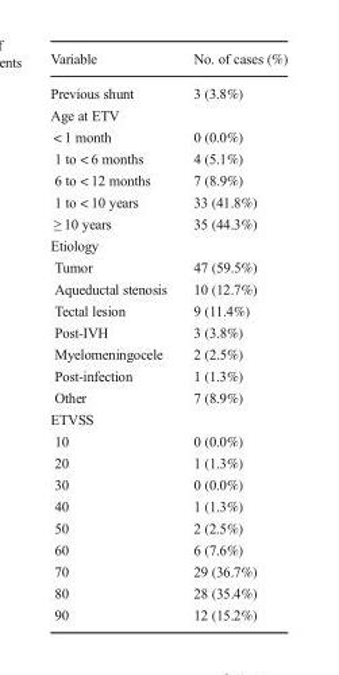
<table><thead><tr><td>Variable</td><td>No. of cases (%)</td></tr></thead><tbody><tr><td>Previous shunt</td><td>3 (3.8%)</td></tr><tr><td colspan="2">Age at ETV</td></tr><tr><td>&lt; 1 month</td><td>0 (0.0%)</td></tr><tr><td>1 to &lt; 6 months</td><td>4 (5.1%)</td></tr><tr><td>6 to &lt; 12 months</td><td>7 (8.9%)</td></tr><tr><td>1 to &lt; 10 years</td><td>33 (41.8%)</td></tr><tr><td>≥ 10 years</td><td>35 (44.3%)</td></tr><tr><td colspan="2">Etiology</td></tr><tr><td>Tumor</td><td>47 (59.5%)</td></tr><tr><td>Aqueductal stenosis</td><td>10 (12.7%)</td></tr><tr><td>Tectal lesion</td><td>9 (11.4%)</td></tr><tr><td>Post-IVH</td><td>3 (3.8%)</td></tr><tr><td>Myelomeningocele</td><td>2 (2.5%)</td></tr><tr><td>Post-infection</td><td>1 (1.3%)</td></tr><tr><td>Other</td><td>7 (8.9%)</td></tr><tr><td colspan="2">ETVSS</td></tr><tr><td>10</td><td>0 (0.0%)</td></tr><tr><td>20</td><td>1 (1.3%)</td></tr><tr><td>30</td><td>0 (0.0%)</td></tr><tr><td>40</td><td>1 (1.3%)</td></tr><tr><td>50</td><td>2 (2.5%)</td></tr><tr><td>60</td><td>6 (7.6%)</td></tr><tr><td>70</td><td>29 (36.7%)</td></tr><tr><td>80</td><td>28 (35.4%)</td></tr><tr><td>90</td><td>12 (15.2%)</td></tr></tbody></table>